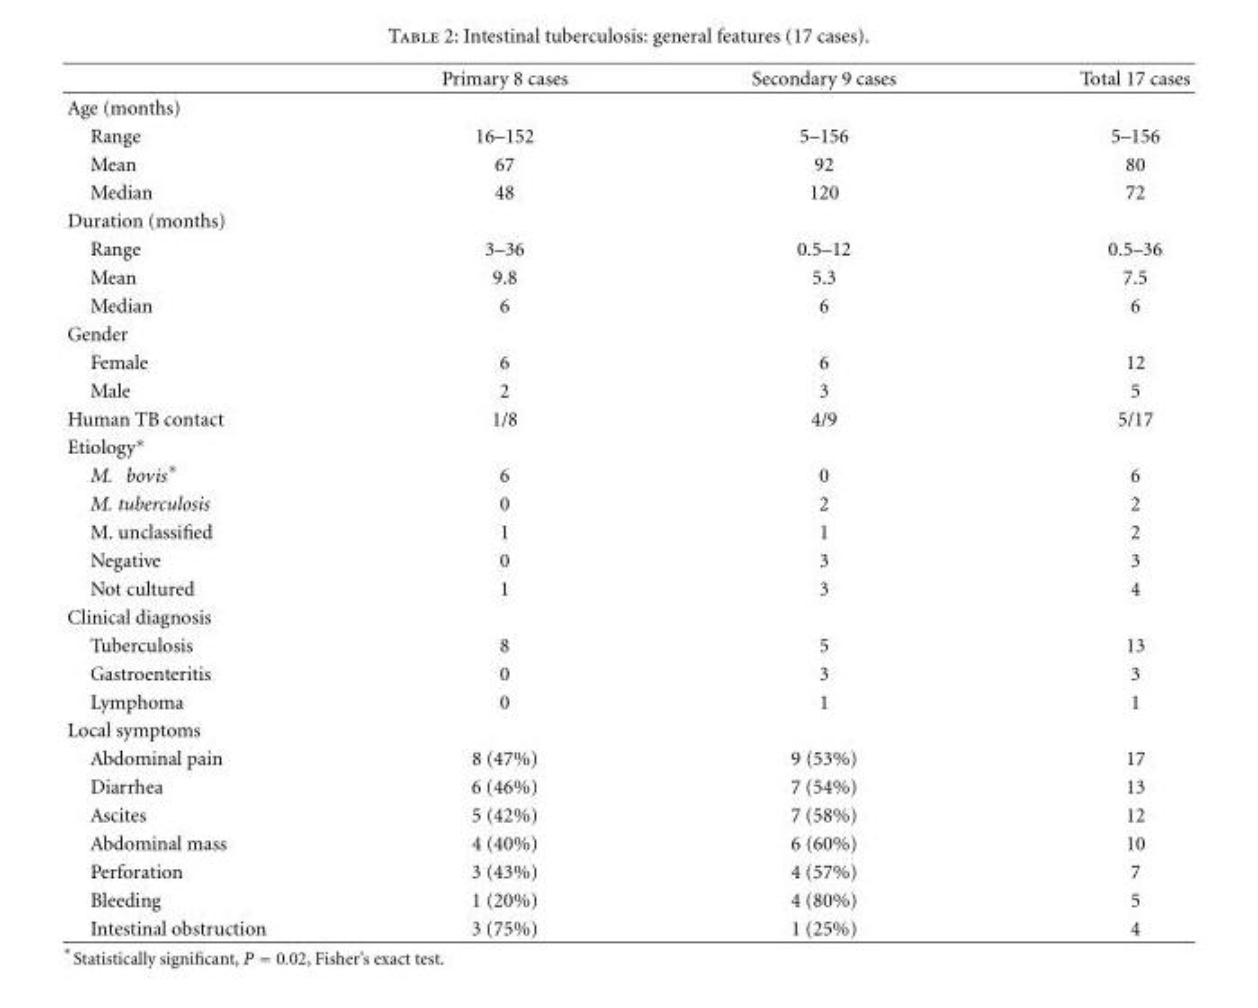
<table><thead><tr><td></td><td>Primary 8 cases</td><td>Secondary 9 cases</td><td>Total 17 cases</td></tr></thead><tbody><tr><td colspan="4">Age (months)</td></tr><tr><td>Range</td><td>16–152</td><td>5–156</td><td>5–156</td></tr><tr><td>Mean</td><td>67</td><td>92</td><td>80</td></tr><tr><td>Median</td><td>48</td><td>120</td><td>72</td></tr><tr><td colspan="4">Duration (months)</td></tr><tr><td>Range</td><td>3–36</td><td>0.5–12</td><td>0.5–36</td></tr><tr><td>Mean</td><td>9.8</td><td>5.3</td><td>7.5</td></tr><tr><td>Median</td><td>6</td><td>6</td><td>6</td></tr><tr><td colspan="4">Gender</td></tr><tr><td>Female</td><td>6</td><td>6</td><td>12</td></tr><tr><td>Male</td><td>2</td><td>3</td><td>5</td></tr><tr><td>Human TB contact</td><td>1/8</td><td>4/9</td><td>5/17</td></tr><tr><td colspan="4">Etiology∗</td></tr><tr><td>M. bovis∗</td><td>6</td><td>0</td><td>6</td></tr><tr><td>M. tuberculosis</td><td>0</td><td>2</td><td>2</td></tr><tr><td>M. unclassified</td><td>1</td><td>1</td><td>2</td></tr><tr><td>Negative</td><td>0</td><td>3</td><td>3</td></tr><tr><td>Not cultured</td><td>1</td><td>3</td><td>4</td></tr><tr><td colspan="4">Clinical diagnosis</td></tr><tr><td>Tuberculosis</td><td>8</td><td>5</td><td>13</td></tr><tr><td>Gastroenteritis</td><td>0</td><td>3</td><td>3</td></tr><tr><td>Lymphoma</td><td>0</td><td>1</td><td>1</td></tr><tr><td colspan="4">Local symptoms</td></tr><tr><td>Abdominal pain</td><td>8 (47%)</td><td>9 (53%)</td><td>17</td></tr><tr><td>Diarrhea</td><td>6 (46%)</td><td>7 (54%)</td><td>13</td></tr><tr><td>Ascites</td><td>5 (42%)</td><td>7 (58%)</td><td>12</td></tr><tr><td>Abdominal mass</td><td>4 (40%)</td><td>6 (60%)</td><td>10</td></tr><tr><td>Perforation</td><td>3 (43%)</td><td>4 (57%)</td><td>7</td></tr><tr><td>Bleeding</td><td>1 (20%)</td><td>4 (80%)</td><td>5</td></tr><tr><td>Intestinal obstruction</td><td>3 (75%)</td><td>1 (25%)</td><td>4</td></tr></tbody></table>